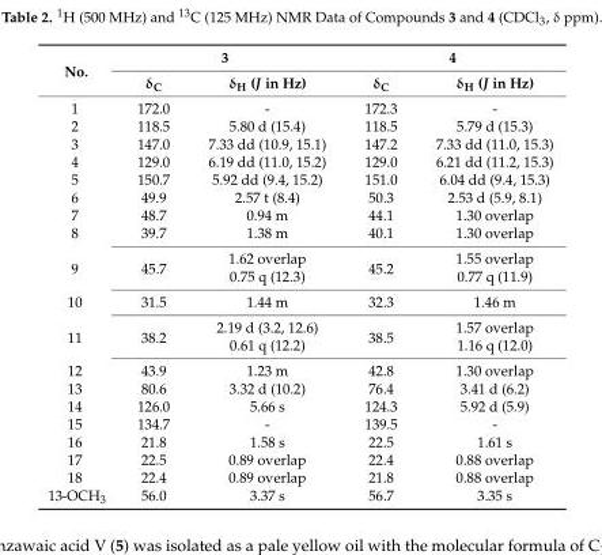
<table><thead><tr><td rowspan="2">No.</td><td colspan="2">3</td><td colspan="2">4</td></tr><tr><td>δ<sub>C</sub></td><td>δ<sub>H</sub> (J in Hz)</td><td>δ<sub>C</sub></td><td>δ<sub>H</sub> (J in Hz)</td></tr></thead><tbody><tr><td>1</td><td>172.0</td><td>-</td><td>172.3</td><td>-</td></tr><tr><td>2</td><td>118.5</td><td>5.80 d (15.4)</td><td>118.5</td><td>5.79 d (15.3)</td></tr><tr><td>3</td><td>147.0</td><td>7.33 dd (10.9, 15.1)</td><td>147.2</td><td>7.33 dd (11.0, 15.3)</td></tr><tr><td>4</td><td>129.0</td><td>6.19 dd (11.0, 15.2)</td><td>129.0</td><td>6.21 dd (11.2, 15.3)</td></tr><tr><td>5</td><td>150.7</td><td>5.92 dd (9.4, 15.2)</td><td>151.0</td><td>6.04 dd (9.4, 15.3)</td></tr><tr><td>6</td><td>49.9</td><td>2.57 t (8.4)</td><td>50.3</td><td>2.53 d (5.9, 8.1)</td></tr><tr><td>7</td><td>48.7</td><td>0.94 m</td><td>44.1</td><td>1.30 overlap</td></tr><tr><td>8</td><td>39.7</td><td>1.38 m</td><td>40.1</td><td>1.30 overlap</td></tr><tr><td rowspan="2">9</td><td rowspan="2">45.7</td><td>1.62 overlap</td><td rowspan="2">45.2</td><td>1.55 overlap</td></tr><tr><td>0.75 q (12.3)</td><td>0.77 q (11.9)</td></tr><tr><td>10</td><td>31.5</td><td>1.44 m</td><td>32.3</td><td>1.46 m</td></tr><tr><td rowspan="2">11</td><td rowspan="2">38.2</td><td>2.19 d (3.2, 12.6)</td><td rowspan="2">38.5</td><td>1.57 overlap</td></tr><tr><td>0.61 q (12.2)</td><td>1.16 q (12.0)</td></tr><tr><td>12</td><td>43.9</td><td>1.23 m</td><td>42.8</td><td>1.30 overlap</td></tr><tr><td>13</td><td>80.6</td><td>3.32 d (10.2)</td><td>76.4</td><td>3.41 d (6.2)</td></tr><tr><td>14</td><td>126.0</td><td>5.66 s</td><td>124.3</td><td>5.92 d (5.9)</td></tr><tr><td>15</td><td>134.7</td><td>-</td><td>139.5</td><td>-</td></tr><tr><td>16</td><td>21.8</td><td>1.58 s</td><td>22.5</td><td>1.61 s</td></tr><tr><td>17</td><td>22.5</td><td>0.89 overlap</td><td>22.4</td><td>0.88 overlap</td></tr><tr><td>18</td><td>22.4</td><td>0.89 overlap</td><td>21.8</td><td>0.88 overlap</td></tr><tr><td>13-OCH<sub>3</sub></td><td>56.0</td><td>3.37 s</td><td>56.7</td><td>3.35 s</td></tr></tbody></table>